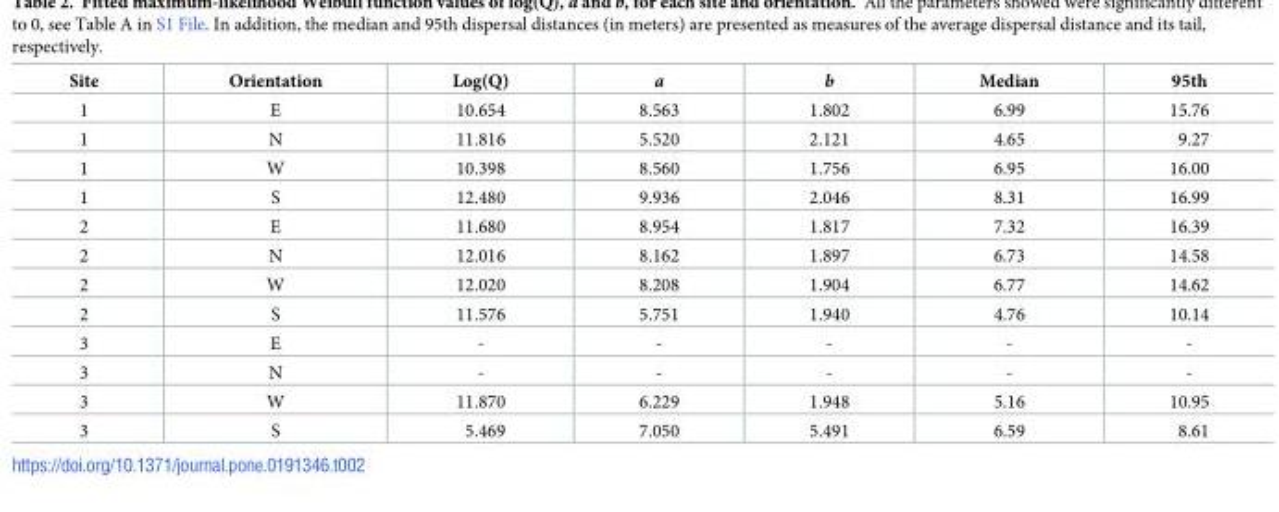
<table><thead><tr><td>Site</td><td>Orientation</td><td>Log(Q)</td><td>a</td><td>b</td><td>Median</td><td>95th</td></tr></thead><tbody><tr><td>1</td><td>E</td><td>10.654</td><td>8.563</td><td>1.802</td><td>6.99</td><td>15.76</td></tr><tr><td>1</td><td>N</td><td>11.816</td><td>5.520</td><td>2.121</td><td>4.65</td><td>9.27</td></tr><tr><td>1</td><td>W</td><td>10.398</td><td>8.560</td><td>1.756</td><td>6.95</td><td>16.00</td></tr><tr><td>1</td><td>S</td><td>12.480</td><td>9.936</td><td>2.046</td><td>8.31</td><td>16.99</td></tr><tr><td>2</td><td>E</td><td>11.680</td><td>8.954</td><td>1.817</td><td>7.32</td><td>16.39</td></tr><tr><td>2</td><td>N</td><td>12.016</td><td>8.162</td><td>1.897</td><td>6.73</td><td>14.58</td></tr><tr><td>2</td><td>W</td><td>12.020</td><td>8.208</td><td>1.904</td><td>6.77</td><td>14.62</td></tr><tr><td>2</td><td>S</td><td>11.576</td><td>5.751</td><td>1.940</td><td>4.76</td><td>10.14</td></tr><tr><td>3</td><td>E</td><td>-</td><td>-</td><td>-</td><td>-</td><td>-</td></tr><tr><td>3</td><td>N</td><td>-</td><td>-</td><td>-</td><td>-</td><td>-</td></tr><tr><td>3</td><td>W</td><td>11.870</td><td>6.229</td><td>1.948</td><td>5.16</td><td>10.95</td></tr><tr><td>3</td><td>S</td><td>5.469</td><td>7.050</td><td>5.491</td><td>6.59</td><td>8.61</td></tr></tbody></table>